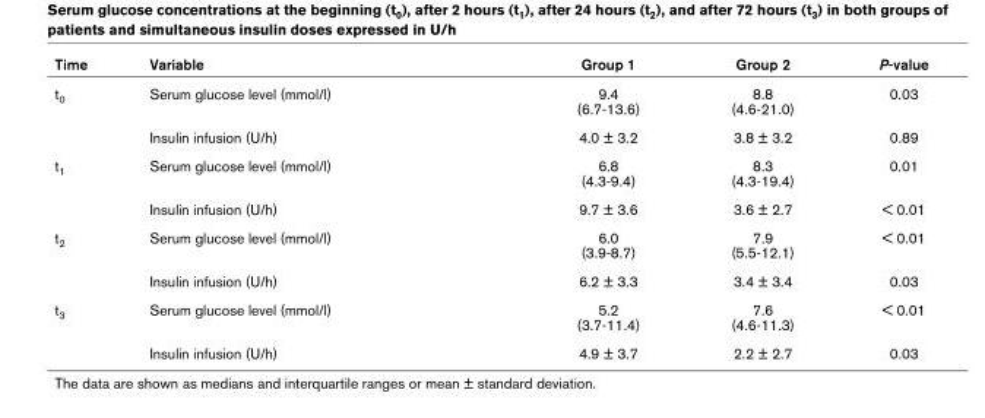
<table><thead><tr><td>Time</td><td>Variable</td><td>Group 1</td><td>Group 2</td><td>P-value</td></tr></thead><tbody><tr><td rowspan="2">t<sub>0</sub></td><td>Serum glucose level (mmol/l)</td><td>9.4 (6.7-13.6)</td><td>8.8 (4.6-21.0)</td><td>0.03</td></tr><tr><td>Insulin infusion (U/h)</td><td>4.0 ± 3.2</td><td>3.8 ± 3.2</td><td>0.89</td></tr><tr><td rowspan="2">t<sub>1</sub></td><td>Serum glucose level (mmol/l)</td><td>6.8 (4.3-9.4)</td><td>8.3 (4.3-19.4)</td><td>0.01</td></tr><tr><td>Insulin infusion (U/h)</td><td>9.7 ± 3.6</td><td>3.6 ± 2.7</td><td>&lt; 0.01</td></tr><tr><td rowspan="2">t<sub>2</sub></td><td>Serum glucose level (mmol/l)</td><td>6.0 (3.9-8.7)</td><td>7.9 (5.5-12.1)</td><td>&lt; 0.01</td></tr><tr><td>Insulin infusion (U/h)</td><td>6.2 ± 3.3</td><td>3.4 ± 3.4</td><td>0.03</td></tr><tr><td rowspan="2">t<sub>3</sub></td><td>Serum glucose level (mmol/l)</td><td>5.2 (3.7-11.4)</td><td>7.6 (4.6-11.3)</td><td>&lt; 0.01</td></tr><tr><td>Insulin infusion (U/h)</td><td>4.9 ± 3.7</td><td>2.2 ± 2.7</td><td>0.03</td></tr></tbody></table>